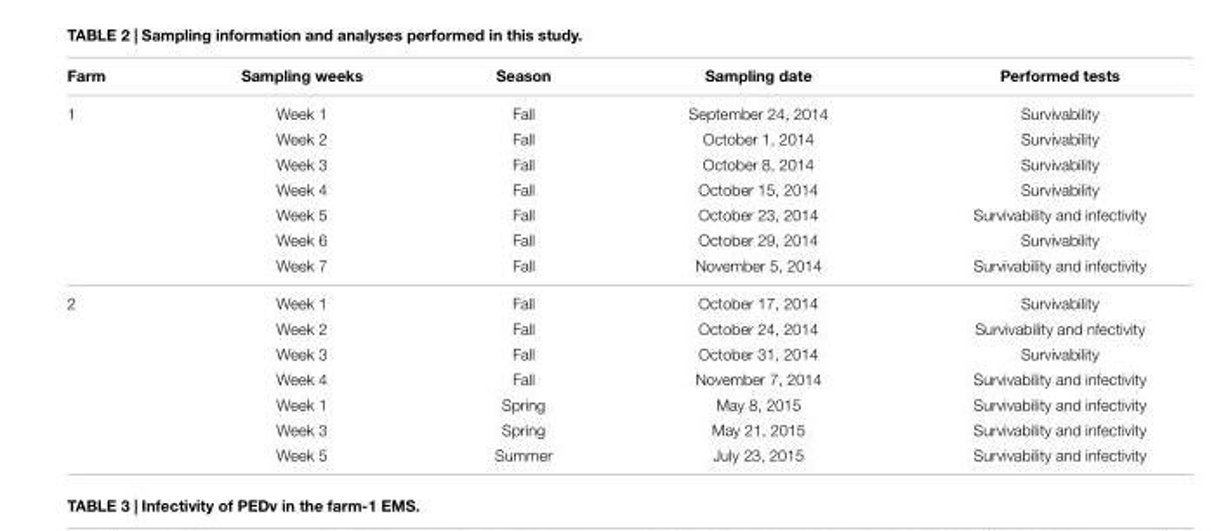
<table><thead><tr><td>Farm</td><td>Sampling weeks</td><td>Season</td><td>Sampling date</td><td>Performed tests</td></tr></thead><tbody><tr><td rowspan="7">1</td><td>Week 1</td><td>Fall</td><td>September 24, 2014</td><td>Survivability</td></tr><tr><td>Week 2</td><td>Fall</td><td>October 1, 2014</td><td>Survivability</td></tr><tr><td>Week 3</td><td>Fall</td><td>October 8, 2014</td><td>Survivability</td></tr><tr><td>Week 4</td><td>Fall</td><td>October 15, 2014</td><td>Survivability</td></tr><tr><td>Week 5</td><td>Fall</td><td>October 23, 2014</td><td>Survivability and infectivity</td></tr><tr><td>Week 6</td><td>Fall</td><td>October 29, 2014</td><td>Survivability</td></tr><tr><td>Week 7</td><td>Fall</td><td>November 5, 2014</td><td>Survivability and infectivity</td></tr><tr><td rowspan="7">2</td><td>Week 1</td><td>Fall</td><td>October 17, 2014</td><td>Survivability</td></tr><tr><td>Week 2</td><td>Fall</td><td>October 24, 2014</td><td>Survivability and nfectivity</td></tr><tr><td>Week 3</td><td>Fall</td><td>October 31, 2014</td><td>Survivability</td></tr><tr><td>Week 4</td><td>Fall</td><td>November 7, 2014</td><td>Survivability and infectivity</td></tr><tr><td>Week 1</td><td>Spring</td><td>May 8, 2015</td><td>Survivability and infectivity</td></tr><tr><td>Week 3</td><td>Spring</td><td>May 21, 2015</td><td>Survivability and infectivity</td></tr><tr><td>Week 5</td><td>Summer</td><td>July 23, 2015</td><td>Survivability and infectivity</td></tr></tbody></table>